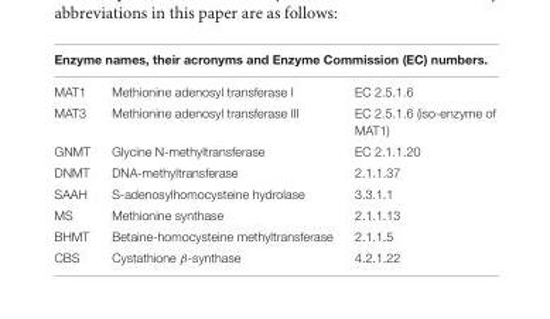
<table><thead><tr><td colspan="3">Enzyme names, their acronyms and Enzyme Commission (EC) numbers.</td></tr><tr><td>MAT1</td><td>Methionine adenosyl transferase I</td><td>EC 2.5.1.6</td></tr></thead><tbody><tr><td>MAT3</td><td>Methionine adenosyl transferase III</td><td>EC 2.5.1.6 (iso-enzyme of MAT1)</td></tr><tr><td>GNMT</td><td>Glycine N-methyltransferase</td><td>EC 2.1.1.20</td></tr><tr><td>DNMT</td><td>DNA-methyltransferase</td><td>2.1.1.37</td></tr><tr><td>SAAH</td><td>S-adenosylhomocysteine hydrolase</td><td>3.3.1.1</td></tr><tr><td>MS</td><td>Methionine synthase</td><td>2.1.1.13</td></tr><tr><td>BHMT</td><td>Betaine-homocysteine methyltransferase</td><td>2.1.1.5</td></tr><tr><td>CBS</td><td>Cystathione β-synthase</td><td>4.2.1.22</td></tr></tbody></table>